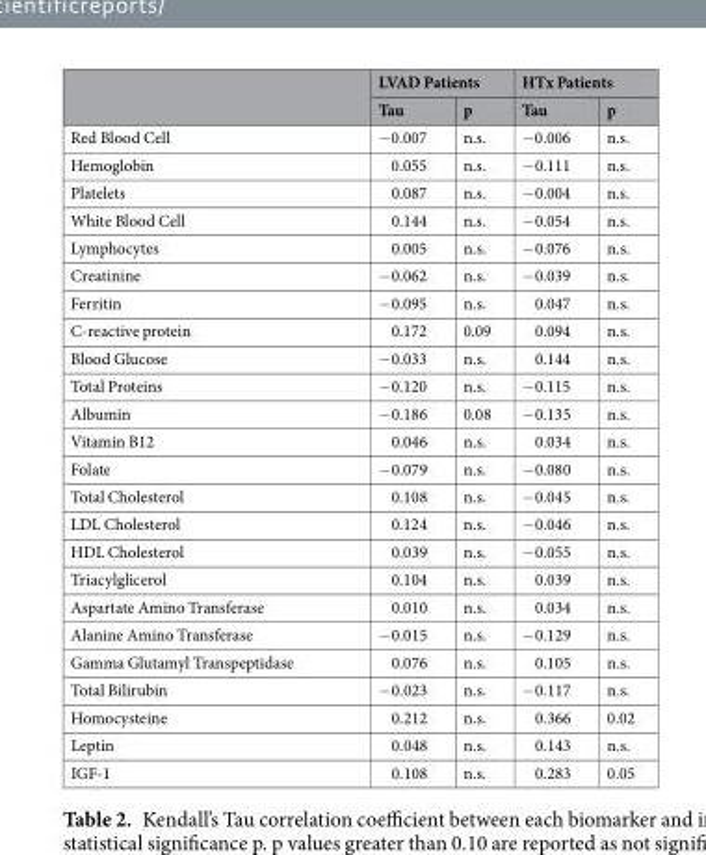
<table><thead><tr><td rowspan="2"></td><td colspan="2">LVAD Patients</td><td colspan="2">HTx Patients</td></tr><tr><td>Tau</td><td>p</td><td>Tau</td><td>p</td></tr></thead><tbody><tr><td>Red Blood Cell</td><td>−0.007</td><td>n.s.</td><td>−0.006</td><td>n.s.</td></tr><tr><td>Hemoglobin</td><td>0.055</td><td>n.s.</td><td>−0.111</td><td>n.s.</td></tr><tr><td>Platelets</td><td>0.087</td><td>n.s.</td><td>−0.004</td><td>n.s.</td></tr><tr><td>White Blood Cell</td><td>0.144</td><td>n.s.</td><td>−0.054</td><td>n.s.</td></tr><tr><td>Lymphocytes</td><td>0.005</td><td>n.s.</td><td>−0.076</td><td>n.s.</td></tr><tr><td>Creatinine</td><td>−0.062</td><td>n.s.</td><td>−0.039</td><td>n.s.</td></tr><tr><td>Ferritin</td><td>−0.095</td><td>n.s.</td><td>0.047</td><td>n.s.</td></tr><tr><td>C-reactive protein</td><td>0.172</td><td>0.09</td><td>0.094</td><td>n.s.</td></tr><tr><td>Blood Glucose</td><td>−0.033</td><td>n.s.</td><td>0.144</td><td>n.s.</td></tr><tr><td>Total Proteins</td><td>−0.120</td><td>n.s.</td><td>−0.115</td><td>n.s.</td></tr><tr><td>Albumin</td><td>−0.186</td><td>0.08</td><td>−0.135</td><td>n.s.</td></tr><tr><td>Vitamin B12</td><td>0.046</td><td>n.s.</td><td>0.034</td><td>n.s.</td></tr><tr><td>Folate</td><td>−0.079</td><td>n.s.</td><td>−0.080</td><td>n.s.</td></tr><tr><td>Total Cholesterol</td><td>0.108</td><td>n.s.</td><td>−0.045</td><td>n.s.</td></tr><tr><td>LDL Cholesterol</td><td>0.124</td><td>n.s.</td><td>−0.046</td><td>n.s.</td></tr><tr><td>HDL Cholesterol</td><td>0.039</td><td>n.s.</td><td>−0.055</td><td>n.s.</td></tr><tr><td>Triacylglicerol</td><td>0.104</td><td>n.s.</td><td>0.039</td><td>n.s.</td></tr><tr><td>Aspartate Amino Transferase</td><td>0.010</td><td>n.s.</td><td>0.034</td><td>n.s.</td></tr><tr><td>Alanine Amino Transferase</td><td>−0.015</td><td>n.s.</td><td>−0.129</td><td>n.s.</td></tr><tr><td>Gamma Glutamyl Transpeptidase</td><td>0.076</td><td>n.s.</td><td>0.105</td><td>n.s.</td></tr><tr><td>Total Bilirubin</td><td>−0.023</td><td>n.s.</td><td>−0.117</td><td>n.s.</td></tr><tr><td>Homocysteine</td><td>0.212</td><td>n.s.</td><td>0.366</td><td>0.02</td></tr><tr><td>Leptin</td><td>0.048</td><td>n.s.</td><td>0.143</td><td>n.s.</td></tr><tr><td>IGF-1</td><td>0.108</td><td>n.s.</td><td>0.283</td><td>0.05</td></tr></tbody></table>